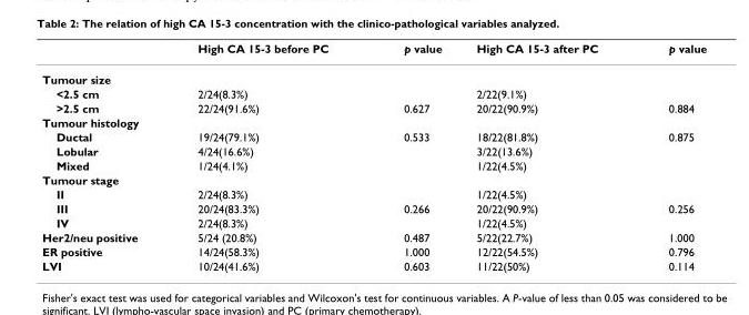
<table><thead><tr><td></td><td>High CA 15-3 before PC</td><td>p value</td><td>High CA 15-3 after PC</td><td>p value</td></tr></thead><tbody><tr><td colspan="5">Tumour size</td></tr><tr><td>&lt;2.5 cm</td><td>2/24(8.3%)</td><td></td><td>2/22(9.1%)</td><td></td></tr><tr><td>&gt;2.5 cm</td><td>22/24(91.6%)</td><td>0.627</td><td>20/22(90.9%)</td><td>0.884</td></tr><tr><td colspan="5">Tumour histology</td></tr><tr><td>Ductal</td><td>19/24(79.1%)</td><td>0.533</td><td>18/22(81.8%)</td><td>0.875</td></tr><tr><td>Lobular</td><td>4/24(16.6%)</td><td></td><td>3/22(13.6%)</td><td></td></tr><tr><td>Mixed</td><td>1/24(4.1%)</td><td></td><td>1/22(4.5%)</td><td></td></tr><tr><td colspan="5">Tumour stage</td></tr><tr><td>II</td><td>2/24(8.3%)</td><td></td><td>1/22(4.5%)</td><td></td></tr><tr><td>III</td><td>20/24(83.3%)</td><td>0.266</td><td>20/22(90.9%)</td><td>0.256</td></tr><tr><td>IV</td><td>2/24(8.3%)</td><td></td><td>1/22(4.5%)</td><td></td></tr><tr><td>Her2/neu positive</td><td>5/24 (20.8%)</td><td>0.487</td><td>5/22(22.7%)</td><td>1.000</td></tr><tr><td>ER positive</td><td>14/24(58.3%)</td><td>1.000</td><td>12/22(54.5%)</td><td>0.796</td></tr><tr><td>LVI</td><td>10/24(41.6%)</td><td>0.603</td><td>11/22(50%)</td><td>0.114</td></tr></tbody></table>